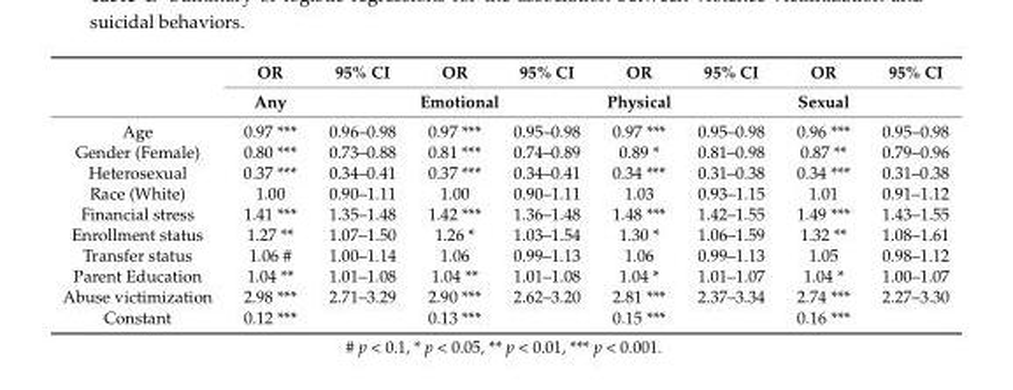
<table><thead><tr><td rowspan="2"></td><td rowspan="2">OR Any</td><td rowspan="2">95% CI</td><td rowspan="2">OR Emotional</td><td rowspan="2">95% CI</td><td rowspan="2">OR Physical</td><td rowspan="2">95% CI</td><td rowspan="2">OR Sexual</td><td rowspan="2">95% CI</td></tr><tr></tr></thead><tbody><tr><td>Age</td><td>0.97 ***</td><td>0.96–0.98</td><td>0.97 ***</td><td>0.95–0.98</td><td>0.97 ***</td><td>0.95–0.98</td><td>0.96 ***</td><td>0.95–0.98</td></tr><tr><td>Gender (Female)</td><td>0.80 ***</td><td>0.73–0.88</td><td>0.81 ***</td><td>0.74–0.89</td><td>0.89 *</td><td>0.81–0.98</td><td>0.87 **</td><td>0.79–0.96</td></tr><tr><td>Heterosexual</td><td>0.37 ***</td><td>0.34–0.41</td><td>0.37 ***</td><td>0.34–0.41</td><td>0.34 ***</td><td>0.31–0.38</td><td>0.34 ***</td><td>0.31–0.38</td></tr><tr><td>Race (White)</td><td>1.00</td><td>0.90–1.11</td><td>1.00</td><td>0.90–1.11</td><td>1.03</td><td>0.93–1.15</td><td>1.01</td><td>0.91–1.12</td></tr><tr><td>Financial stress</td><td>1.41 ***</td><td>1.35–1.48</td><td>1.42 ***</td><td>1.36–1.48</td><td>1.48 ***</td><td>1.42–1.55</td><td>1.49 ***</td><td>1.43–1.55</td></tr><tr><td>Enrollment status</td><td>1.27 **</td><td>1.07–1.50</td><td>1.26 *</td><td>1.03–1.54</td><td>1.30 *</td><td>1.06–1.59</td><td>1.32 **</td><td>1.08–1.61</td></tr><tr><td>Transfer status</td><td>1.06 #</td><td>1.00–1.14</td><td>1.06</td><td>0.99–1.13</td><td>1.06</td><td>0.99–1.13</td><td>1.05</td><td>0.98–1.12</td></tr><tr><td>Parent Education</td><td>1.04 **</td><td>1.01–1.08</td><td>1.04 **</td><td>1.01–1.08</td><td>1.04 *</td><td>1.01–1.07</td><td>1.04 *</td><td>1.00–1.07</td></tr><tr><td>Abuse victimization</td><td>2.98 ***</td><td>2.71–3.29</td><td>2.90 ***</td><td>2.62–3.20</td><td>2.81 ***</td><td>2.37–3.34</td><td>2.74 ***</td><td>2.27–3.30</td></tr><tr><td>Constant</td><td>0.12 ***</td><td></td><td>0.13 ***</td><td></td><td>0.15 ***</td><td></td><td>0.16 ***</td><td></td></tr></tbody></table>